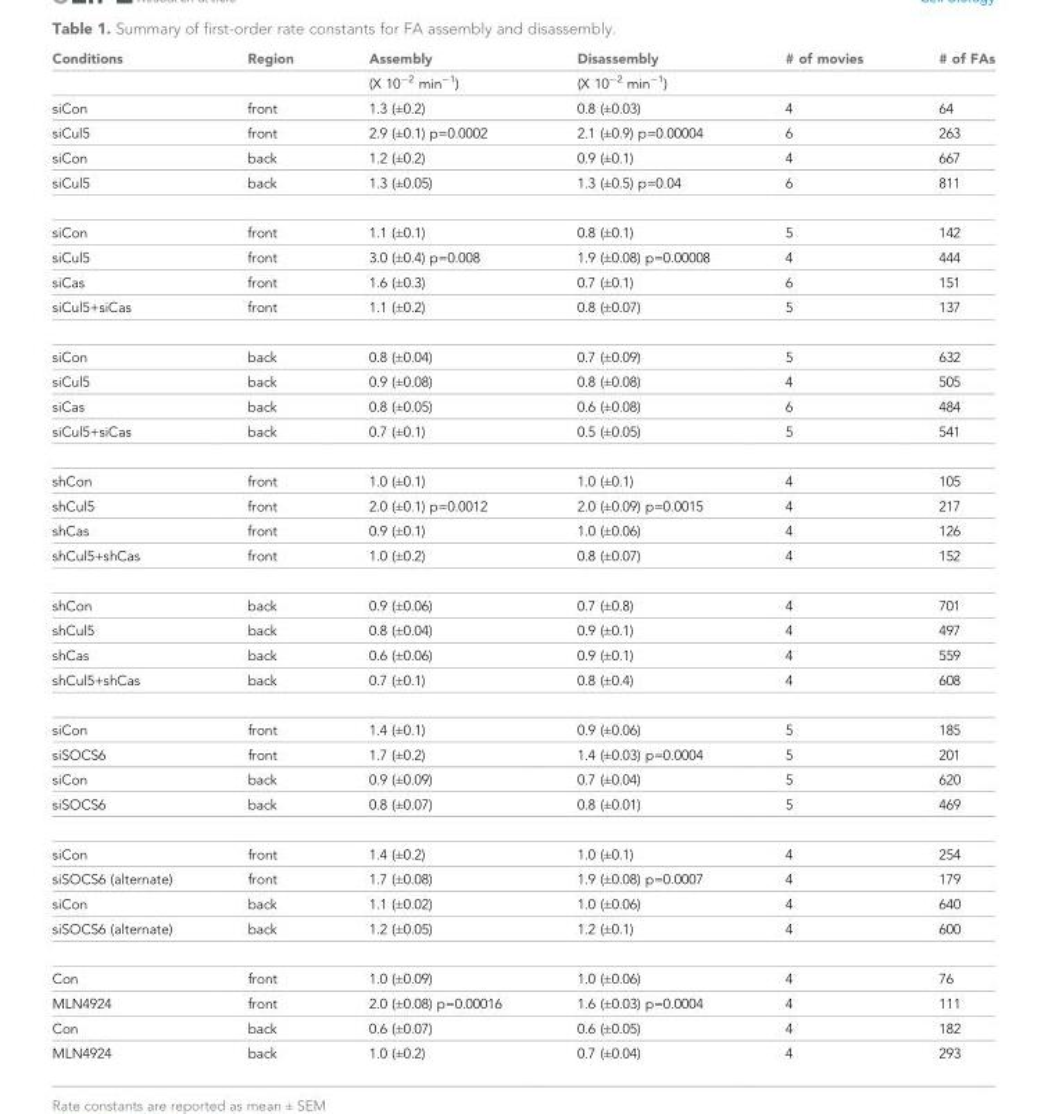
<table><thead><tr><td>Conditions</td><td>Region</td><td>Assembly</td><td>Disassembly</td><td># of movies</td><td># of FAs</td></tr></thead><tbody><tr><td></td><td></td><td>(X 10<sup>−2</sup> min<sup>−1</sup>)</td><td>(X 10<sup>−2</sup> min<sup>−1</sup>)</td><td></td><td></td></tr><tr><td>siCon</td><td>front</td><td>1.3 (±0.2)</td><td>0.8 (±0.03)</td><td>4</td><td>64</td></tr><tr><td>siCul5</td><td>front</td><td>2.9 (±0.1) p=0.0002</td><td>2.1 (±0.9) p=0.00004</td><td>6</td><td>263</td></tr><tr><td>siCon</td><td>back</td><td>1.2 (±0.2)</td><td>0.9 (±0.1)</td><td>4</td><td>667</td></tr><tr><td>siCul5</td><td>back</td><td>1.3 (±0.05)</td><td>1.3 (±0.5) p=0.04</td><td>6</td><td>811</td></tr><tr><td>siCon</td><td>front</td><td>1.1 (±0.1)</td><td>0.8 (±0.1)</td><td>5</td><td>142</td></tr><tr><td>siCul5</td><td>front</td><td>3.0 (±0.4) p=0.008</td><td>1.9 (±0.08) p=0.00008</td><td>4</td><td>444</td></tr><tr><td>siCas</td><td>front</td><td>1.6 (±0.3)</td><td>0.7 (±0.1)</td><td>6</td><td>151</td></tr><tr><td>siCul5+siCas</td><td>front</td><td>1.1 (±0.2)</td><td>0.8 (±0.07)</td><td>5</td><td>137</td></tr><tr><td>siCon</td><td>back</td><td>0.8 (±0.04)</td><td>0.7 (±0.09)</td><td>5</td><td>632</td></tr><tr><td>siCul5</td><td>back</td><td>0.9 (±0.08)</td><td>0.8 (±0.08)</td><td>4</td><td>505</td></tr><tr><td>siCas</td><td>back</td><td>0.8 (±0.05)</td><td>0.6 (±0.08)</td><td>6</td><td>484</td></tr><tr><td>siCul5+siCas</td><td>back</td><td>0.7 (±0.1)</td><td>0.5 (±0.05)</td><td>5</td><td>541</td></tr><tr><td>shCon</td><td>front</td><td>1.0 (±0.1)</td><td>1.0 (±0.1)</td><td>4</td><td>105</td></tr><tr><td>shCul5</td><td>front</td><td>2.0 (±0.1) p=0.0012</td><td>2.0 (±0.09) p=0.0015</td><td>4</td><td>217</td></tr><tr><td>shCas</td><td>front</td><td>0.9 (±0.1)</td><td>1.0 (±0.06)</td><td>4</td><td>126</td></tr><tr><td>shCul5+shCas</td><td>front</td><td>1.0 (±0.2)</td><td>0.8 (±0.07)</td><td>4</td><td>152</td></tr><tr><td>shCon</td><td>back</td><td>0.9 (±0.06)</td><td>0.7 (±0.8)</td><td>4</td><td>701</td></tr><tr><td>shCul5</td><td>back</td><td>0.8 (±0.04)</td><td>0.9 (±0.1)</td><td>4</td><td>497</td></tr><tr><td>shCas</td><td>back</td><td>0.6 (±0.06)</td><td>0.9 (±0.1)</td><td>4</td><td>559</td></tr><tr><td>shCul5+shCas</td><td>back</td><td>0.7 (±0.1)</td><td>0.8 (±0.4)</td><td>4</td><td>608</td></tr><tr><td>siCon</td><td>front</td><td>1.4 (±0.1)</td><td>0.9 (±0.06)</td><td>5</td><td>185</td></tr><tr><td>siSOCS6</td><td>front</td><td>1.7 (±0.2)</td><td>1.4 (±0.03) p=0.0004</td><td>5</td><td>201</td></tr><tr><td>siCon</td><td>back</td><td>0.9 (±0.09)</td><td>0.7 (±0.04)</td><td>5</td><td>620</td></tr><tr><td>siSOCS6</td><td>back</td><td>0.8 (±0.07)</td><td>0.8 (±0.01)</td><td>5</td><td>469</td></tr><tr><td>siCon</td><td>front</td><td>1.4 (±0.2)</td><td>1.0 (±0.1)</td><td>4</td><td>254</td></tr><tr><td>siSOCS6 (alternate)</td><td>front</td><td>1.7 (±0.08)</td><td>1.9 (±0.08) p=0.0007</td><td>4</td><td>179</td></tr><tr><td>siCon</td><td>back</td><td>1.1 (±0.02)</td><td>1.0 (±0.06)</td><td>4</td><td>640</td></tr><tr><td>siSOCS6 (alternate)</td><td>back</td><td>1.2 (±0.05)</td><td>1.2 (±0.1)</td><td>4</td><td>600</td></tr><tr><td>Con</td><td>front</td><td>1.0 (±0.09)</td><td>1.0 (±0.06)</td><td>4</td><td>76</td></tr><tr><td>MLN4924</td><td>front</td><td>2.0 (±0.08) p=0.00016</td><td>1.6 (±0.03) p=0.0004</td><td>4</td><td>111</td></tr><tr><td>Con</td><td>back</td><td>0.6 (±0.07)</td><td>0.6 (±0.05)</td><td>4</td><td>182</td></tr><tr><td>MLN4924</td><td>back</td><td>1.0 (±0.2)</td><td>0.7 (±0.04)</td><td>4</td><td>293</td></tr></tbody></table>